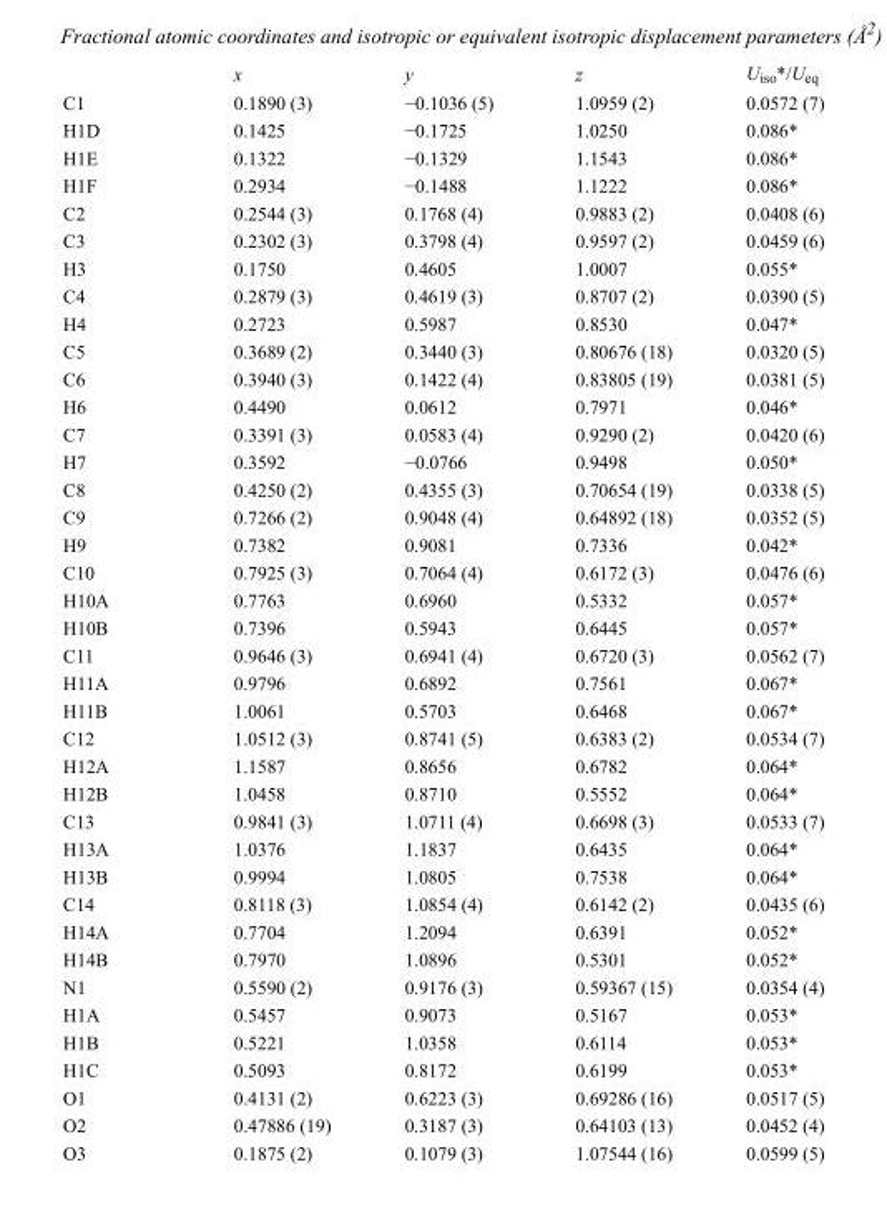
<table><thead><tr><td></td><td>x</td><td>y</td><td>z</td><td>U<sub>iso</sub>*/U<sub>eq</sub></td></tr></thead><tbody><tr><td>C1</td><td>0.1890 (3)</td><td>−0.1036 (5)</td><td>1.0959 (2)</td><td>0.0572 (7)</td></tr><tr><td>H1D</td><td>0.1425</td><td>−0.1725</td><td>1.0250</td><td>0.086*</td></tr><tr><td>H1E</td><td>0.1322</td><td>−0.1329</td><td>1.1543</td><td>0.086*</td></tr><tr><td>H1F</td><td>0.2934</td><td>−0.1488</td><td>1.1222</td><td>0.086*</td></tr><tr><td>C2</td><td>0.2544 (3)</td><td>0.1768 (4)</td><td>0.9883 (2)</td><td>0.0408 (6)</td></tr><tr><td>C3</td><td>0.2302 (3)</td><td>0.3798 (4)</td><td>0.9597 (2)</td><td>0.0459 (6)</td></tr><tr><td>H3</td><td>0.1750</td><td>0.4605</td><td>1.0007</td><td>0.055*</td></tr><tr><td>C4</td><td>0.2879 (3)</td><td>0.4619 (3)</td><td>0.8707 (2)</td><td>0.0390 (5)</td></tr><tr><td>H4</td><td>0.2723</td><td>0.5987</td><td>0.8530</td><td>0.047*</td></tr><tr><td>C5</td><td>0.3689 (2)</td><td>0.3440 (3)</td><td>0.80676 (18)</td><td>0.0320 (5)</td></tr><tr><td>C6</td><td>0.3940 (3)</td><td>0.1422 (4)</td><td>0.83805 (19)</td><td>0.0381 (5)</td></tr><tr><td>H6</td><td>0.4490</td><td>0.0612</td><td>0.7971</td><td>0.046*</td></tr><tr><td>C7</td><td>0.3391 (3)</td><td>0.0583 (4)</td><td>0.9290 (2)</td><td>0.0420 (6)</td></tr><tr><td>H7</td><td>0.3592</td><td>−0.0766</td><td>0.9498</td><td>0.050*</td></tr><tr><td>C8</td><td>0.4250 (2)</td><td>0.4355 (3)</td><td>0.70654 (19)</td><td>0.0338 (5)</td></tr><tr><td>C9</td><td>0.7266 (2)</td><td>0.9048 (4)</td><td>0.64892 (18)</td><td>0.0352 (5)</td></tr><tr><td>H9</td><td>0.7382</td><td>0.9081</td><td>0.7336</td><td>0.042*</td></tr><tr><td>C10</td><td>0.7925 (3)</td><td>0.7064 (4)</td><td>0.6172 (3)</td><td>0.0476 (6)</td></tr><tr><td>H10A</td><td>0.7763</td><td>0.6960</td><td>0.5332</td><td>0.057*</td></tr><tr><td>H10B</td><td>0.7396</td><td>0.5943</td><td>0.6445</td><td>0.057*</td></tr><tr><td>C11</td><td>0.9646 (3)</td><td>0.6941 (4)</td><td>0.6720 (3)</td><td>0.0562 (7)</td></tr><tr><td>H11A</td><td>0.9796</td><td>0.6892</td><td>0.7561</td><td>0.067*</td></tr><tr><td>H11B</td><td>1.0061</td><td>0.5703</td><td>0.6468</td><td>0.067*</td></tr><tr><td>C12</td><td>1.0512 (3)</td><td>0.8741 (5)</td><td>0.6383 (2)</td><td>0.0534 (7)</td></tr><tr><td>H12A</td><td>1.1587</td><td>0.8656</td><td>0.6782</td><td>0.064*</td></tr><tr><td>H12B</td><td>1.0458</td><td>0.8710</td><td>0.5552</td><td>0.064*</td></tr><tr><td>C13</td><td>0.9841 (3)</td><td>1.0711 (4)</td><td>0.6698 (3)</td><td>0.0533 (7)</td></tr><tr><td>H13A</td><td>1.0376</td><td>1.1837</td><td>0.6435</td><td>0.064*</td></tr><tr><td>H13B</td><td>0.9994</td><td>1.0805</td><td>0.7538</td><td>0.064*</td></tr><tr><td>C14</td><td>0.8118 (3)</td><td>1.0854 (4)</td><td>0.6142 (2)</td><td>0.0435 (6)</td></tr><tr><td>H14A</td><td>0.7704</td><td>1.2094</td><td>0.6391</td><td>0.052*</td></tr><tr><td>H14B</td><td>0.7970</td><td>1.0896</td><td>0.5301</td><td>0.052*</td></tr><tr><td>N1</td><td>0.5590 (2)</td><td>0.9176 (3)</td><td>0.59367 (15)</td><td>0.0354 (4)</td></tr><tr><td>H1A</td><td>0.5457</td><td>0.9073</td><td>0.5167</td><td>0.053*</td></tr><tr><td>H1B</td><td>0.5221</td><td>1.0358</td><td>0.6114</td><td>0.053*</td></tr><tr><td>H1C</td><td>0.5093</td><td>0.8172</td><td>0.6199</td><td>0.053*</td></tr><tr><td>O1</td><td>0.4131 (2)</td><td>0.6223 (3)</td><td>0.69286 (16)</td><td>0.0517 (5)</td></tr><tr><td>O2</td><td>0.47886 (19)</td><td>0.3187 (3)</td><td>0.64103 (13)</td><td>0.0452 (4)</td></tr><tr><td>O3</td><td>0.1875 (2)</td><td>0.1079 (3)</td><td>1.07544 (16)</td><td>0.0599 (5)</td></tr></tbody></table>